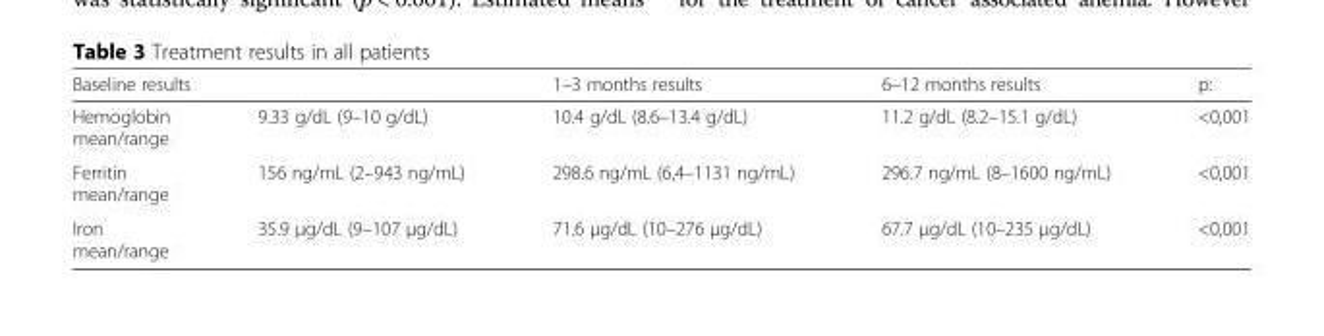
<table><thead><tr><td colspan="2">Baseline results</td><td rowspan="2">1–3 months results 10.4 g/dL (8.6–13.4 g/dL)</td><td rowspan="2">6–12 months results 11.2 g/dL (8.2–15.1 g/dL)</td><td rowspan="2">p: &lt;0,001</td></tr><tr><td>Hemoglobin mean/range</td><td>9.33 g/dL (9–10 g/dL)</td></tr></thead><tbody><tr><td>Ferritin mean/range</td><td>156 ng/mL (2–943 ng/mL)</td><td>298.6 ng/mL (6,4–1131 ng/mL)</td><td>296.7 ng/mL (8–1600 ng/mL)</td><td>&lt;0,001</td></tr><tr><td>Iron mean/range</td><td>35.9 μg/dL (9–107 μg/dL)</td><td>71.6 μg/dL (10–276 μg/dL)</td><td>67.7 μg/dL (10–235 μg/dL)</td><td>&lt;0,001</td></tr></tbody></table>